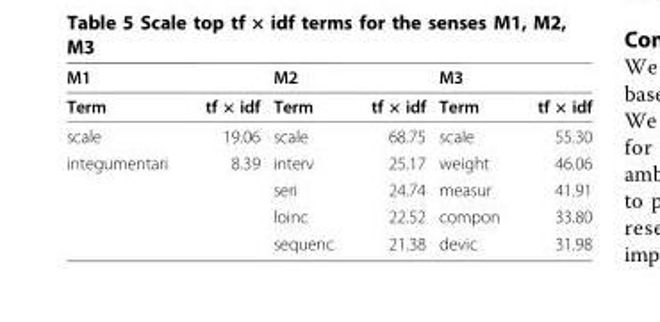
<table><thead><tr><td colspan="2">M1</td><td colspan="2">M2</td><td colspan="2">M3</td></tr><tr><td>Term</td><td>tf × idf</td><td>Term</td><td>tf × idf</td><td>Term</td><td>tf × idf</td></tr></thead><tbody><tr><td>scale</td><td>19.06</td><td>scale</td><td>68.75</td><td>scale</td><td>55.30</td></tr><tr><td rowspan="4">integumentari</td><td>8.39</td><td>interv</td><td>25.17</td><td>weight</td><td>46.06</td></tr><tr><td></td><td>seri</td><td>24.74</td><td>measur</td><td>41.91</td></tr><tr><td></td><td>loinc</td><td>22.52</td><td>compon</td><td>33.80</td></tr><tr><td></td><td>sequenc</td><td>21.38</td><td>devic</td><td>31.98</td></tr></tbody></table>